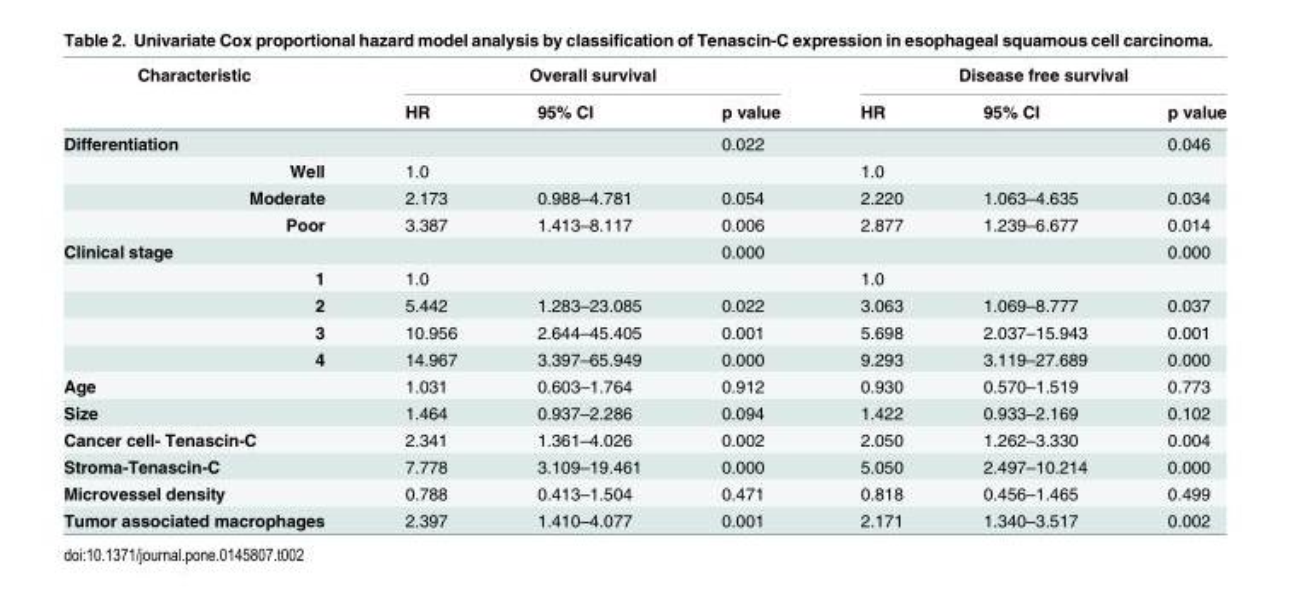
<table><thead><tr><td rowspan="2">Characteristic</td><td colspan="3">Overall survival</td><td colspan="3">Disease free survival</td></tr><tr><td>HR</td><td>95% CI</td><td>p value</td><td>HR</td><td>95% CI</td><td>p value</td></tr></thead><tbody><tr><td>Differentiation</td><td></td><td></td><td>0.022</td><td></td><td></td><td>0.046</td></tr><tr><td>Well</td><td>1.0</td><td></td><td></td><td>1.0</td><td></td><td></td></tr><tr><td>Moderate</td><td>2.173</td><td>0.988–4.781</td><td>0.054</td><td>2.220</td><td>1.063–4.635</td><td>0.034</td></tr><tr><td>Poor</td><td>3.387</td><td>1.413–8.117</td><td>0.006</td><td>2.877</td><td>1.239–6.677</td><td>0.014</td></tr><tr><td>Clinical stage</td><td></td><td></td><td>0.000</td><td></td><td></td><td>0.000</td></tr><tr><td>1</td><td>1.0</td><td></td><td></td><td>1.0</td><td></td><td></td></tr><tr><td>2</td><td>5.442</td><td>1.283–23.085</td><td>0.022</td><td>3.063</td><td>1.069–8.777</td><td>0.037</td></tr><tr><td>3</td><td>10.956</td><td>2.644–45.405</td><td>0.001</td><td>5.698</td><td>2.037–15.943</td><td>0.001</td></tr><tr><td>4</td><td>14.967</td><td>3.397–65.949</td><td>0.000</td><td>9.293</td><td>3.119–27.689</td><td>0.000</td></tr><tr><td>Age</td><td>1.031</td><td>0.603–1.764</td><td>0.912</td><td>0.930</td><td>0.570–1.519</td><td>0.773</td></tr><tr><td>Size</td><td>1.464</td><td>0.937–2.286</td><td>0.094</td><td>1.422</td><td>0.933–2.169</td><td>0.102</td></tr><tr><td>Cancer cell- Tenascin-C</td><td>2.341</td><td>1.361–4.026</td><td>0.002</td><td>2.050</td><td>1.262–3.330</td><td>0.004</td></tr><tr><td>Stroma-Tenascin-C</td><td>7.778</td><td>3.109–19.461</td><td>0.000</td><td>5.050</td><td>2.497–10.214</td><td>0.000</td></tr><tr><td>Microvessel density</td><td>0.788</td><td>0.413–1.504</td><td>0.471</td><td>0.818</td><td>0.456–1.465</td><td>0.499</td></tr><tr><td>Tumor associated macrophages</td><td>2.397</td><td>1.410–4.077</td><td>0.001</td><td>2.171</td><td>1.340–3.517</td><td>0.002</td></tr></tbody></table>